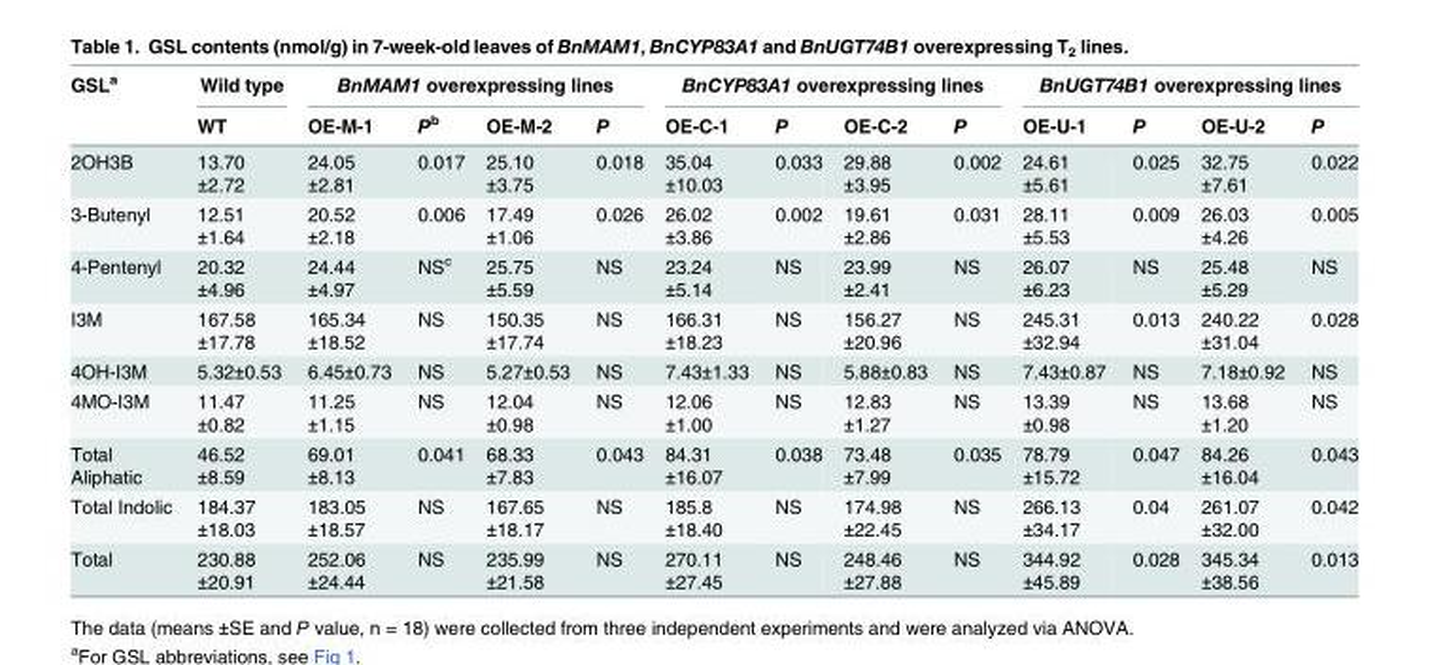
<table><thead><tr><td rowspan="2">GSL<sup>a</sup></td><td rowspan="2">Wild type WT</td><td colspan="4">BnMAM1 overexpressing lines</td><td colspan="4">BnCYP83A1 overexpressing lines</td><td colspan="4">BnUGT74B1 overexpressing lines</td></tr><tr><td>OE-M-1</td><td>P<sup>b</sup></td><td>OE-M-2</td><td>P</td><td>OE-C-1</td><td>P</td><td>OE-C-2</td><td>P</td><td>OE-U-1</td><td>P</td><td>OE-U-2</td><td>P</td></tr></thead><tbody><tr><td>2OH3B</td><td>13.70 ±2.72</td><td>24.05 ±2.81</td><td>0.017</td><td>25.10 ±3.75</td><td>0.018</td><td>35.04 ±10.03</td><td>0.033</td><td>29.88 ±3.95</td><td>0.002</td><td>24.61 ±5.61</td><td>0.025</td><td>32.75 ±7.61</td><td>0.022</td></tr><tr><td>3-Butenyl</td><td>12.51 ±1.64</td><td>20.52 ±2.18</td><td>0.006</td><td>17.49 ±1.06</td><td>0.026</td><td>26.02 ±3.86</td><td>0.002</td><td>19.61 ±2.86</td><td>0.031</td><td>28.11 ±5.53</td><td>0.009</td><td>26.03 ±4.26</td><td>0.005</td></tr><tr><td>4-Pentenyl</td><td>20.32 ±4.96</td><td>24.44 ±4.97</td><td>NS<sup>c</sup></td><td>25.75 ±5.59</td><td>NS</td><td>23.24 ±5.14</td><td>NS</td><td>23.99 ±2.41</td><td>NS</td><td>26.07 ±6.23</td><td>NS</td><td>25.48 ±5.29</td><td>NS</td></tr><tr><td>I3M</td><td>167.58 ±17.78</td><td>165.34 ±18.52</td><td>NS</td><td>150.35 ±17.74</td><td>NS</td><td>166.31 ±18.23</td><td>NS</td><td>156.27 ±20.96</td><td>NS</td><td>245.31 ±32.94</td><td>0.013</td><td>240.22 ±31.04</td><td>0.028</td></tr><tr><td>4OH-I3M</td><td>5.32±0.53</td><td>6.45±0.73</td><td>NS</td><td>5.27±0.53</td><td>NS</td><td>7.43±1.33</td><td>NS</td><td>5.88±0.83</td><td>NS</td><td>7.43±0.87</td><td>NS</td><td>7.18±0.92</td><td>NS</td></tr><tr><td>4MO-I3M</td><td>11.47 ±0.82</td><td>11.25 ±1.15</td><td>NS</td><td>12.04 ±0.98</td><td>NS</td><td>12.06 ±1.00</td><td>NS</td><td>12.83 ±1.27</td><td>NS</td><td>13.39 ±0.98</td><td>NS</td><td>13.68 ±1.20</td><td>NS</td></tr><tr><td>Total Aliphatic</td><td>46.52 ±8.59</td><td>69.01 ±8.13</td><td>0.041</td><td>68.33 ±7.83</td><td>0.043</td><td>84.31 ±16.07</td><td>0.038</td><td>73.48 ±7.99</td><td>0.035</td><td>78.79 ±15.72</td><td>0.047</td><td>84.26 ±16.04</td><td>0.043</td></tr><tr><td>Total Indolic</td><td>184.37 ±18.03</td><td>183.05 ±18.57</td><td>NS</td><td>167.65 ±18.17</td><td>NS</td><td>185.8 ±18.40</td><td>NS</td><td>174.98 ±22.45</td><td>NS</td><td>266.13 ±34.17</td><td>0.04</td><td>261.07 ±32.00</td><td>0.042</td></tr><tr><td>Total</td><td>230.88 ±20.91</td><td>252.06 ±24.44</td><td>NS</td><td>235.99 ±21.58</td><td>NS</td><td>270.11 ±27.45</td><td>NS</td><td>248.46 ±27.88</td><td>NS</td><td>344.92 ±45.89</td><td>0.028</td><td>345.34 ±38.56</td><td>0.013</td></tr></tbody></table>